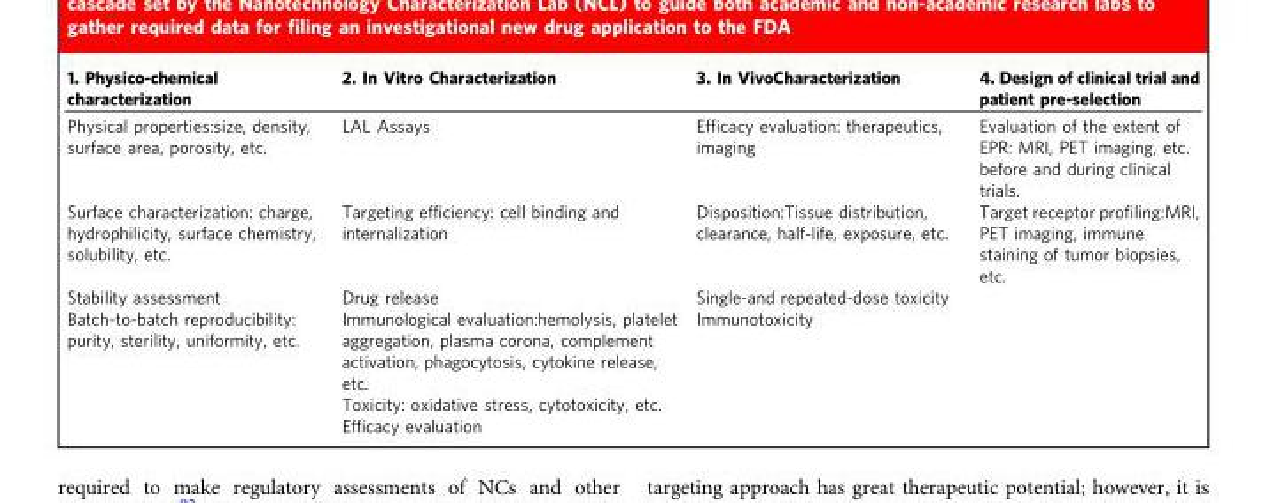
<table><thead><tr><td>1. Physico-chemical characterization</td><td>2. In Vitro Characterization</td><td>3. In VivoCharacterization</td><td>4. Design of clinical trial and patient pre-selection</td></tr></thead><tbody><tr><td>Physical properties:size, density, surface area, porosity, etc.</td><td>LAL Assays</td><td>Efficacy evaluation: therapeutics, imaging</td><td>Evaluation of the extent of EPR: MRI, PET imaging, etc. before and during clinical trials.</td></tr><tr><td>Surface characterization: charge, hydrophilicity, surface chemistry, solubility, etc.</td><td>Targeting efficiency: cell binding and internalization</td><td>Disposition:Tissue distribution, clearance, half-life, exposure, etc.</td><td>Target receptor profiling:MRI, PET imaging, immune staining of tumor biopsies, etc.</td></tr><tr><td>Stability assessment</td><td>Drug release</td><td>Single-and repeated-dose toxicity</td><td></td></tr><tr><td rowspan="3">Batch-to-batch reproducibility: purity, sterility, uniformity, etc.</td><td>Immunological evaluation:hemolysis, platelet aggregation, plasma corona, complement activation, phagocytosis, cytokine release, etc.</td><td>Immunotoxicity</td><td></td></tr><tr><td>Toxicity: oxidative stress, cytotoxicity, etc.</td><td></td><td></td></tr><tr><td>Efficacy evaluation</td><td></td><td></td></tr></tbody></table>